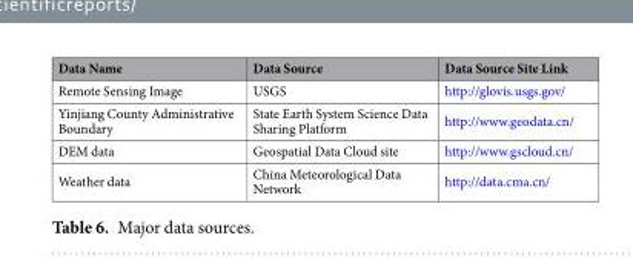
<table><thead><tr><td>Data Name</td><td>Data Source</td><td>Data Source Site Link</td></tr></thead><tbody><tr><td>Remote Sensing Image</td><td>USGS</td><td>http://glovis.usgs.gov/</td></tr><tr><td>Yinjiang County Administrative Boundary</td><td>State Earth System Science Data Sharing Platform</td><td>http://www.geodata.cn/</td></tr><tr><td>DEM data</td><td>Geospatial Data Cloud site</td><td>http://www.gscloud.cn/</td></tr><tr><td>Weather data</td><td>China Meteorological Data Network</td><td>http://data.cma.cn/</td></tr></tbody></table>